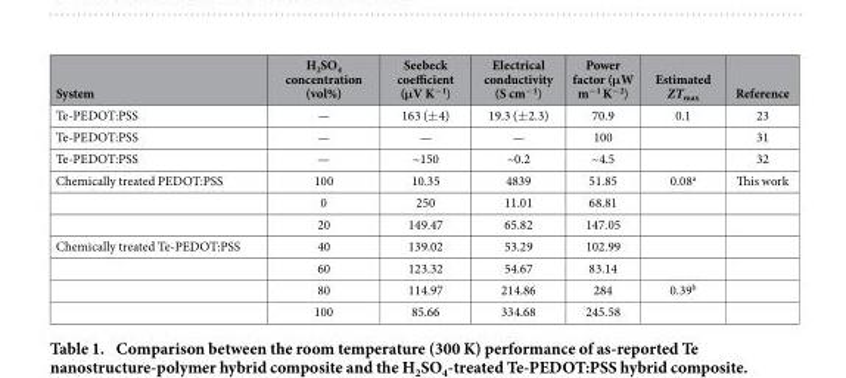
<table><thead><tr><td>System</td><td>H<sub>2</sub>SO<sub>4</sub> concentration (vol%)</td><td>Seebeck coefficient (μV K<sup>−1</sup>)</td><td>Electrical conductivity (S cm<sup>−1</sup>)</td><td>Power factor (μW m<sup>−1</sup> K<sup>−2</sup>)</td><td>Estimated ZT<sub>max</sub></td><td>Reference</td></tr></thead><tbody><tr><td>Te-PEDOT:PSS</td><td>—</td><td>163 (± 4)</td><td>19.3 (± 2.3)</td><td>70.9</td><td>0.1</td><td>23</td></tr><tr><td>Te-PEDOT:PSS</td><td>—</td><td>—</td><td>—</td><td>100</td><td></td><td>31</td></tr><tr><td>Te-PEDOT:PSS</td><td>—</td><td>~150</td><td>~0.2</td><td>~4.5</td><td></td><td>32</td></tr><tr><td rowspan="3">Chemically treated PEDOT:PSS</td><td>100</td><td>10.35</td><td>4839</td><td>51.85</td><td>0.08<sup>a</sup></td><td>This work</td></tr><tr><td>0</td><td>250</td><td>11.01</td><td>68.81</td><td></td><td></td></tr><tr><td>20</td><td>149.47</td><td>65.82</td><td>147.05</td><td></td><td></td></tr><tr><td rowspan="4">Chemically treated Te-PEDOT:PSS</td><td>40</td><td>139.02</td><td>53.29</td><td>102.99</td><td></td><td></td></tr><tr><td>60</td><td>123.32</td><td>54.67</td><td>83.14</td><td></td><td></td></tr><tr><td>80</td><td>114.97</td><td>214.86</td><td>284</td><td>0.39<sup>b</sup></td><td></td></tr><tr><td>100</td><td>85.66</td><td>334.68</td><td>245.58</td><td></td><td></td></tr></tbody></table>